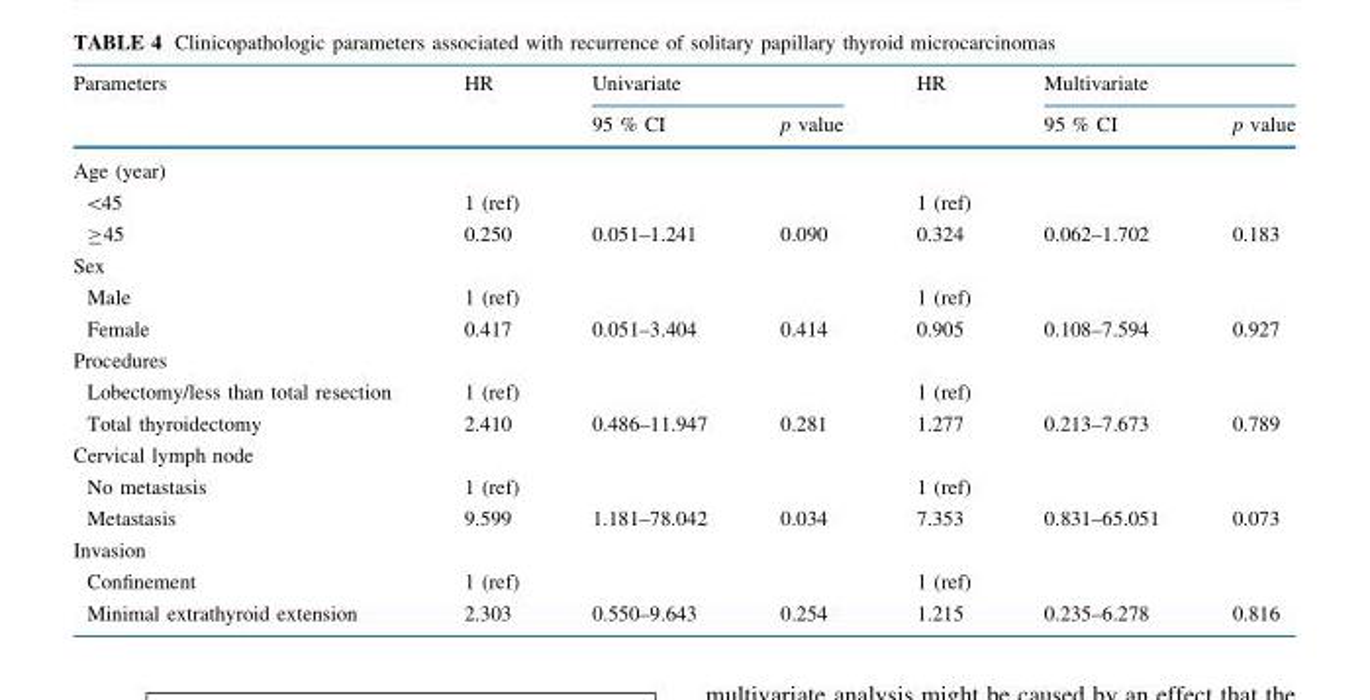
<table><thead><tr><td rowspan="2">Parameters</td><td rowspan="2">HR</td><td colspan="2">Univariate</td><td rowspan="2">HR</td><td colspan="2">Multivariate</td></tr><tr><td>95 % CI</td><td>p value</td><td>95 % CI</td><td>p value</td></tr></thead><tbody><tr><td colspan="7">Age (year)</td></tr><tr><td>&lt;45</td><td>1 (ref)</td><td></td><td></td><td>1 (ref)</td><td></td><td></td></tr><tr><td>≥45</td><td>0.250</td><td>0.051–1.241</td><td>0.090</td><td>0.324</td><td>0.062–1.702</td><td>0.183</td></tr><tr><td colspan="7">Sex</td></tr><tr><td>Male</td><td>1 (ref)</td><td></td><td></td><td>1 (ref)</td><td></td><td></td></tr><tr><td>Female</td><td>0.417</td><td>0.051–3.404</td><td>0.414</td><td>0.905</td><td>0.108–7.594</td><td>0.927</td></tr><tr><td colspan="7">Procedures</td></tr><tr><td>Lobectomy/less than total resection</td><td>1 (ref)</td><td></td><td></td><td>1 (ref)</td><td></td><td></td></tr><tr><td>Total thyroidectomy</td><td>2.410</td><td>0.486–11.947</td><td>0.281</td><td>1.277</td><td>0.213–7.673</td><td>0.789</td></tr><tr><td colspan="7">Cervical lymph node</td></tr><tr><td>No metastasis</td><td>1 (ref)</td><td></td><td></td><td>1 (ref)</td><td></td><td></td></tr><tr><td>Metastasis</td><td>9.599</td><td>1.181–78.042</td><td>0.034</td><td>7.353</td><td>0.831–65.051</td><td>0.073</td></tr><tr><td colspan="7">Invasion</td></tr><tr><td>Confinement</td><td>1 (ref)</td><td></td><td></td><td>1 (ref)</td><td></td><td></td></tr><tr><td>Minimal extrathyroid extension</td><td>2.303</td><td>0.550–9.643</td><td>0.254</td><td>1.215</td><td>0.235–6.278</td><td>0.816</td></tr></tbody></table>